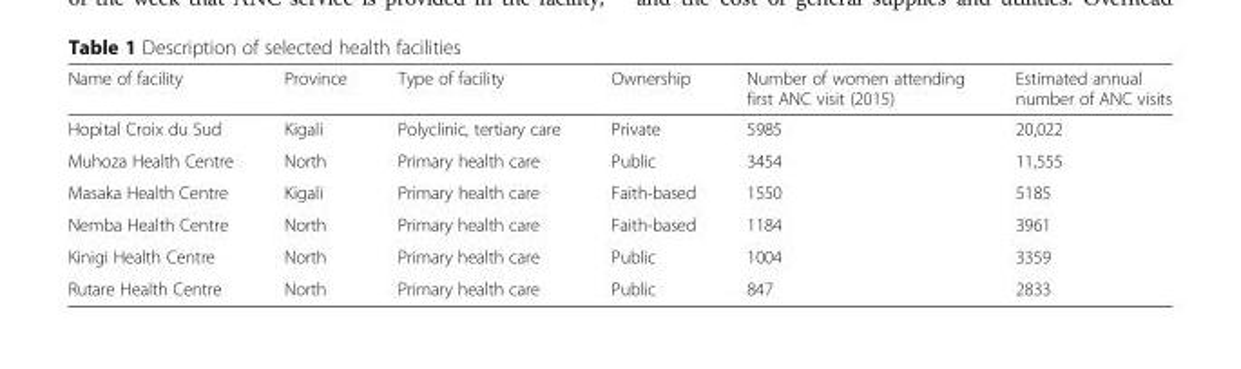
<table><thead><tr><td>Name of facility</td><td>Province</td><td>Type of facility</td><td>Ownership</td><td>Number of women attending first ANC visit (2015)</td><td>Estimated annual number of ANC visits</td></tr></thead><tbody><tr><td>Hopital Croix du Sud</td><td>Kigali</td><td>Polyclinic, tertiary care</td><td>Private</td><td>5985</td><td>20,022</td></tr><tr><td>Muhoza Health Centre</td><td>North</td><td>Primary health care</td><td>Public</td><td>3454</td><td>11,555</td></tr><tr><td>Masaka Health Centre</td><td>Kigali</td><td>Primary health care</td><td>Faith-based</td><td>1550</td><td>5185</td></tr><tr><td>Nemba Health Centre</td><td>North</td><td>Primary health care</td><td>Faith-based</td><td>1184</td><td>3961</td></tr><tr><td>Kinigi Health Centre</td><td>North</td><td>Primary health care</td><td>Public</td><td>1004</td><td>3359</td></tr><tr><td>Rutare Health Centre</td><td>North</td><td>Primary health care</td><td>Public</td><td>847</td><td>2833</td></tr></tbody></table>